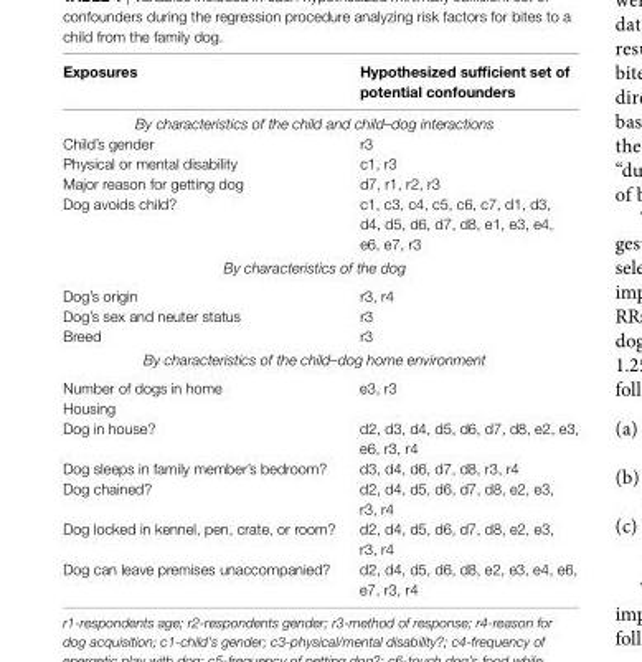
<table><thead><tr><td>exposures</td><td>hypothesized sufficient set of potential confounders</td></tr></thead><tbody><tr><td colspan="2">By characteristics of the child and child–dog interactions</td></tr><tr><td>Child’s gender</td><td>r3</td></tr><tr><td>Physical or mental disability</td><td>c1, r3</td></tr><tr><td>Major reason for getting dog</td><td>d7, r1, r2, r3</td></tr><tr><td>Dog avoids child?</td><td>c1, c3, c4, c5, c6, c7, d1, d3, d4, d5, d6, d7, d8, e1, e3, e4, e6, e7, r3</td></tr><tr><td colspan="2">By characteristics of the dog</td></tr><tr><td>Dog’s origin</td><td>r3, r4</td></tr><tr><td>Dog’s sex and neuter status</td><td>r3</td></tr><tr><td>Breed</td><td>r3</td></tr><tr><td colspan="2">By characteristics of the child–dog home environment</td></tr><tr><td>Number of dogs in home</td><td>e3, r3</td></tr><tr><td colspan="2">Housing</td></tr><tr><td>Dog in house?</td><td>d2, d3, d4, d5, d6, d7, d8, e2, e3, e6, r3, r4</td></tr><tr><td>Dog sleeps in family member’s bedroom?</td><td>d3, d4, d6, d7, d8, r3, r4</td></tr><tr><td>Dog chained?</td><td>d2, d4, d5, d6, d7, d8, e2, e3, r3, r4</td></tr><tr><td>Dog locked in kennel, pen, crate, or room?</td><td>d2, d4, d5, d6, d7, d8, e2, e3, r3, r4</td></tr><tr><td>Dog can leave premises unaccompanied?</td><td>d2, d4, d5, d6, d8, e2, e3, e4, e6, e7, r3, r4</td></tr></tbody></table>